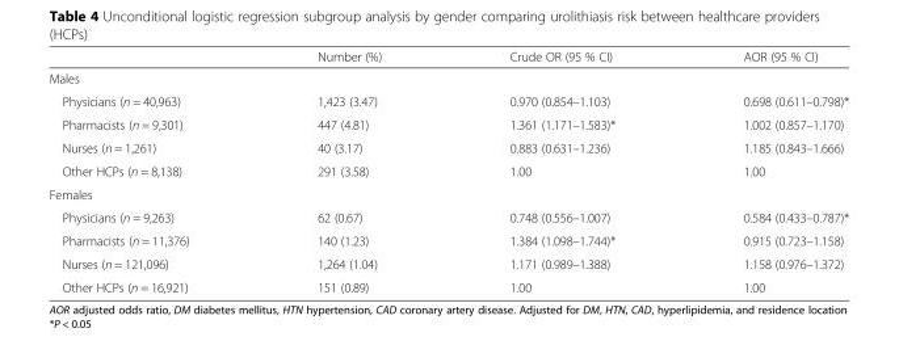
<table><thead><tr><td></td><td>Number (%)</td><td>Crude OR (95 % CI)</td><td>AOR (95 % CI)</td></tr></thead><tbody><tr><td colspan="4">Males</td></tr><tr><td>Physicians (n = 40,963)</td><td>1,423 (3.47)</td><td>0.970 (0.854–1.103)</td><td>0.698 (0.611–0.798)*</td></tr><tr><td>Pharmacists (n = 9,301)</td><td>447 (4.81)</td><td>1.361 (1.171–1.583)*</td><td>1.002 (0.857–1.170)</td></tr><tr><td>Nurses (n = 1,261)</td><td>40 (3.17)</td><td>0.883 (0.631–1.236)</td><td>1.185 (0.843–1.666)</td></tr><tr><td>Other HCPs (n = 8,138)</td><td>291 (3.58)</td><td>1.00</td><td>1.00</td></tr><tr><td colspan="4">Females</td></tr><tr><td>Physicians (n = 9,263)</td><td>62 (0.67)</td><td>0.748 (0.556–1.007)</td><td>0.584 (0.433–0.787)*</td></tr><tr><td>Pharmacists (n = 11,376)</td><td>140 (1.23)</td><td>1.384 (1.098–1.744)*</td><td>0.915 (0.723–1.158)</td></tr><tr><td>Nurses (n = 121,096)</td><td>1,264 (1.04)</td><td>1.171 (0.989–1.388)</td><td>1.158 (0.976–1.372)</td></tr><tr><td>Other HCPs (n = 16,921)</td><td>151 (0.89)</td><td>1.00</td><td>1.00</td></tr></tbody></table>